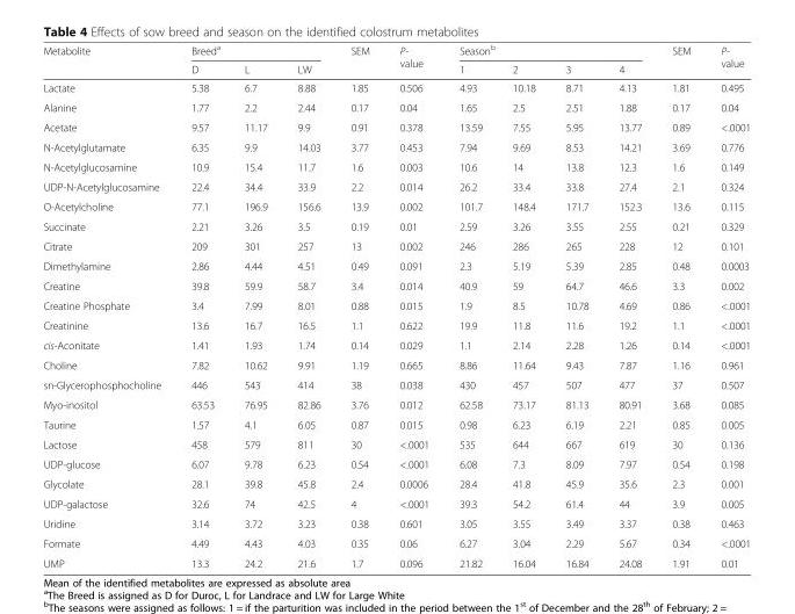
<table><thead><tr><td rowspan="2">Metabolite</td><td colspan="3">Breed<sup>a</sup></td><td rowspan="2">SEM</td><td rowspan="2">P- value</td><td colspan="4">Season<sup>b</sup></td><td rowspan="2">SEM</td><td rowspan="2">P- value</td></tr><tr><td>D</td><td>L</td><td>LW</td><td>1</td><td>2</td><td>3</td><td>4</td></tr></thead><tbody><tr><td>Lactate</td><td>5.38</td><td>6.7</td><td>8.88</td><td>1.85</td><td>0.506</td><td>4.93</td><td>10.18</td><td>8.71</td><td>4.13</td><td>1.81</td><td>0.495</td></tr><tr><td>Alanine</td><td>1.77</td><td>2.2</td><td>2.44</td><td>0.17</td><td>0.04</td><td>1.65</td><td>2.5</td><td>2.51</td><td>1.88</td><td>0.17</td><td>0.04</td></tr><tr><td>Acetate</td><td>9.57</td><td>11.17</td><td>9.9</td><td>0.91</td><td>0.378</td><td>13.59</td><td>7.55</td><td>5.95</td><td>13.77</td><td>0.89</td><td>&lt;.0001</td></tr><tr><td>N-Acetylglutamate</td><td>6.35</td><td>9.9</td><td>14.03</td><td>3.77</td><td>0.453</td><td>7.94</td><td>9.69</td><td>8.53</td><td>14.21</td><td>3.69</td><td>0.776</td></tr><tr><td>N-Acetylglucosamine</td><td>10.9</td><td>15.4</td><td>11.7</td><td>1.6</td><td>0.003</td><td>10.6</td><td>14</td><td>13.8</td><td>12.3</td><td>1.6</td><td>0.149</td></tr><tr><td>UDP-N-Acetylglucosamine</td><td>22.4</td><td>34.4</td><td>33.9</td><td>2.2</td><td>0.014</td><td>26.2</td><td>33.4</td><td>33.8</td><td>27.4</td><td>2.1</td><td>0.324</td></tr><tr><td>O-Acetylcholine</td><td>77.1</td><td>196.9</td><td>156.6</td><td>13.9</td><td>0.002</td><td>101.7</td><td>148.4</td><td>171.7</td><td>152.3</td><td>13.6</td><td>0.115</td></tr><tr><td>Succinate</td><td>2.21</td><td>3.26</td><td>3.5</td><td>0.19</td><td>0.01</td><td>2.59</td><td>3.26</td><td>3.55</td><td>2.55</td><td>0.21</td><td>0.329</td></tr><tr><td>Citrate</td><td>209</td><td>301</td><td>257</td><td>13</td><td>0.002</td><td>246</td><td>286</td><td>265</td><td>228</td><td>12</td><td>0.101</td></tr><tr><td>Dimethylamine</td><td>2.86</td><td>4.44</td><td>4.51</td><td>0.49</td><td>0.091</td><td>2.3</td><td>5.19</td><td>5.39</td><td>2.85</td><td>0.48</td><td>0.0003</td></tr><tr><td>Creatine</td><td>39.8</td><td>59.9</td><td>58.7</td><td>3.4</td><td>0.014</td><td>40.9</td><td>59</td><td>64.7</td><td>46.6</td><td>3.3</td><td>0.002</td></tr><tr><td>Creatine Phosphate</td><td>3.4</td><td>7.99</td><td>8.01</td><td>0.88</td><td>0.015</td><td>1.9</td><td>8.5</td><td>10.78</td><td>4.69</td><td>0.86</td><td>&lt;.0001</td></tr><tr><td>Creatinine</td><td>13.6</td><td>16.7</td><td>16.5</td><td>1.1</td><td>0.622</td><td>19.9</td><td>11.8</td><td>11.6</td><td>19.2</td><td>1.1</td><td>&lt;.0001</td></tr><tr><td>cis-Aconitate</td><td>1.41</td><td>1.93</td><td>1.74</td><td>0.14</td><td>0.029</td><td>1.1</td><td>2.14</td><td>2.28</td><td>1.26</td><td>0.14</td><td>&lt;.0001</td></tr><tr><td>Choline</td><td>7.82</td><td>10.62</td><td>9.91</td><td>1.19</td><td>0.665</td><td>8.86</td><td>11.64</td><td>9.43</td><td>7.87</td><td>1.16</td><td>0.961</td></tr><tr><td>sn-Glycerophosphocholine</td><td>446</td><td>543</td><td>414</td><td>38</td><td>0.038</td><td>430</td><td>457</td><td>507</td><td>477</td><td>37</td><td>0.507</td></tr><tr><td>Myo-inositol</td><td>63.53</td><td>76.95</td><td>82.86</td><td>3.76</td><td>0.012</td><td>62.58</td><td>73.17</td><td>81.13</td><td>80.91</td><td>3.68</td><td>0.085</td></tr><tr><td>Taurine</td><td>1.57</td><td>4.1</td><td>6.05</td><td>0.87</td><td>0.015</td><td>0.98</td><td>6.23</td><td>6.19</td><td>2.21</td><td>0.85</td><td>0.005</td></tr><tr><td>Lactose</td><td>458</td><td>579</td><td>811</td><td>30</td><td>&lt;.0001</td><td>535</td><td>644</td><td>667</td><td>619</td><td>30</td><td>0.136</td></tr><tr><td>UDP-glucose</td><td>6.07</td><td>9.78</td><td>6.23</td><td>0.54</td><td>&lt;.0001</td><td>6.08</td><td>7.3</td><td>8.09</td><td>7.97</td><td>0.54</td><td>0.198</td></tr><tr><td>Glycolate</td><td>28.1</td><td>39.8</td><td>45.8</td><td>2.4</td><td>0.0006</td><td>28.4</td><td>41.8</td><td>45.9</td><td>35.6</td><td>2.3</td><td>0.001</td></tr><tr><td>UDP-galactose</td><td>32.6</td><td>74</td><td>42.5</td><td>4</td><td>&lt;.0001</td><td>39.3</td><td>54.2</td><td>61.4</td><td>44</td><td>3.9</td><td>0.005</td></tr><tr><td>Uridine</td><td>3.14</td><td>3.72</td><td>3.23</td><td>0.38</td><td>0.601</td><td>3.05</td><td>3.55</td><td>3.49</td><td>3.37</td><td>0.38</td><td>0.463</td></tr><tr><td>Formate</td><td>4.49</td><td>4.43</td><td>4.03</td><td>0.35</td><td>0.06</td><td>6.27</td><td>3.04</td><td>2.29</td><td>5.67</td><td>0.34</td><td>&lt;.0001</td></tr><tr><td>UMP</td><td>13.3</td><td>24.2</td><td>21.6</td><td>1.7</td><td>0.096</td><td>21.82</td><td>16.04</td><td>16.84</td><td>24.08</td><td>1.91</td><td>0.01</td></tr></tbody></table>